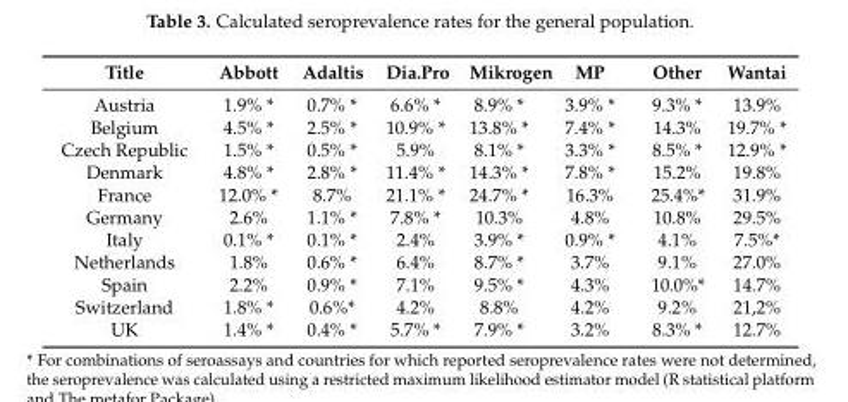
<table><thead><tr><td>Title</td><td>Abbott</td><td>Adaltis</td><td>Dia.Pro</td><td>Mikrogen</td><td>MP</td><td>Other</td><td>Wantai</td></tr></thead><tbody><tr><td>Austria</td><td>1.9% *</td><td>0.7% *</td><td>6.6% *</td><td>8.9% *</td><td>3.9% *</td><td>9.3% *</td><td>13.9%</td></tr><tr><td>Belgium</td><td>4.5% *</td><td>2.5% *</td><td>10.9% *</td><td>13.8% *</td><td>7.4% *</td><td>14.3%</td><td>19.7% *</td></tr><tr><td>Czech Republic</td><td>1.5% *</td><td>0.5% *</td><td>5.9%</td><td>8.1% *</td><td>3.3% *</td><td>8.5% *</td><td>12.9% *</td></tr><tr><td>Denmark</td><td>4.8% *</td><td>2.8% *</td><td>11.4% *</td><td>14.3% *</td><td>7.8% *</td><td>15.2%</td><td>19.8%</td></tr><tr><td>France</td><td>12.0% *</td><td>8.7%</td><td>21.1% *</td><td>24.7% *</td><td>16.3%</td><td>25.4%*</td><td>31.9%</td></tr><tr><td>Germany</td><td>2.6%</td><td>1.1% *</td><td>7.8% *</td><td>10.3%</td><td>4.8%</td><td>10.8%</td><td>29.5%</td></tr><tr><td>Italy</td><td>0.1% *</td><td>0.1% *</td><td>2.4%</td><td>3.9% *</td><td>0.9% *</td><td>4.1%</td><td>7.5%*</td></tr><tr><td>Netherlands</td><td>1.8%</td><td>0.6% *</td><td>6.4%</td><td>8.7% *</td><td>3.7%</td><td>9.1%</td><td>27.0%</td></tr><tr><td>Spain</td><td>2.2%</td><td>0.9% *</td><td>7.1%</td><td>9.5% *</td><td>4.3%</td><td>10.0%*</td><td>14.7%</td></tr><tr><td>Switzerland</td><td>1.8% *</td><td>0.6%*</td><td>4.2%</td><td>8.8%</td><td>4.2%</td><td>9.2%</td><td>21,2%</td></tr><tr><td>UK</td><td>1.4% *</td><td>0.4% *</td><td>5.7% *</td><td>7.9% *</td><td>3.2%</td><td>8.3% *</td><td>12.7%</td></tr></tbody></table>